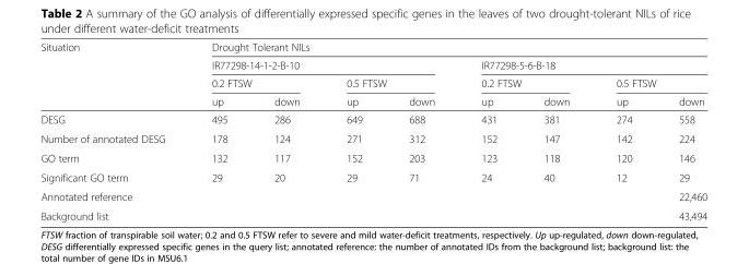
<table><thead><tr><td rowspan="4">Situation</td><td colspan="8">Drought Tolerant NILs</td></tr><tr><td colspan="4">IR77298-14-1-2-B-10</td><td colspan="4">IR77298-5-6-B-18</td></tr><tr><td colspan="2">0.2 FTSW</td><td colspan="2">0.5 FTSW</td><td colspan="2">0.2 FTSW</td><td colspan="2">0.5 FTSW</td></tr><tr><td>up</td><td>down</td><td>up</td><td>down</td><td>up</td><td>down</td><td>up</td><td>down</td></tr></thead><tbody><tr><td>DESG</td><td>495</td><td>286</td><td>649</td><td>688</td><td>431</td><td>381</td><td>274</td><td>558</td></tr><tr><td>Number of annotated DESG</td><td>178</td><td>124</td><td>271</td><td>312</td><td>152</td><td>147</td><td>142</td><td>224</td></tr><tr><td>GO term</td><td>132</td><td>117</td><td>152</td><td>203</td><td>123</td><td>118</td><td>120</td><td>146</td></tr><tr><td>Significant GO term</td><td>29</td><td>20</td><td>29</td><td>71</td><td>24</td><td>40</td><td>12</td><td>29</td></tr><tr><td>Annotated reference</td><td></td><td></td><td></td><td></td><td></td><td></td><td></td><td>22,460</td></tr><tr><td>Background list</td><td></td><td></td><td></td><td></td><td></td><td></td><td></td><td>43,494</td></tr></tbody></table>